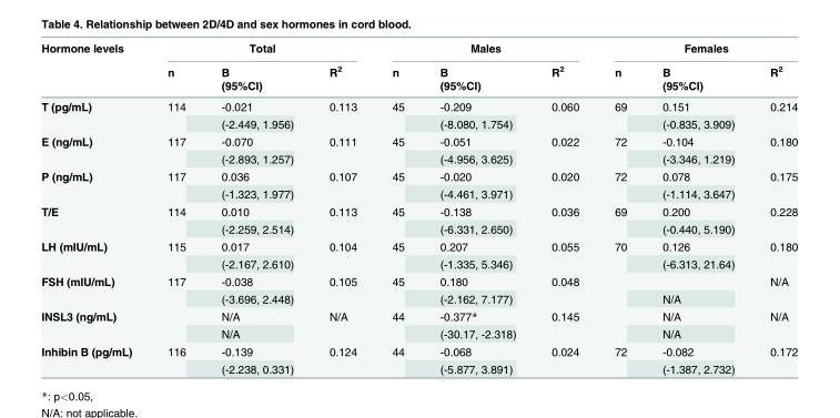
<table><thead><tr><td rowspan="3">Hormone levels</td><td colspan="3">Total</td><td colspan="3">Males</td><td colspan="3">Females</td></tr><tr><td rowspan="2">n</td><td rowspan="2">B (95%CI)</td><td rowspan="2">R<sup>2</sup></td><td rowspan="2">n</td><td rowspan="2">B (95%CI)</td><td rowspan="2">R<sup>2</sup></td><td rowspan="2">n</td><td rowspan="2">B (95%CI)</td><td rowspan="2">R<sup>2</sup></td></tr><tr></tr></thead><tbody><tr><td rowspan="2">T (pg/mL)</td><td rowspan="2">114</td><td>-0.021</td><td rowspan="2">0.113</td><td rowspan="2">45</td><td>-0.209</td><td rowspan="2">0.060</td><td rowspan="2">69</td><td>0.151</td><td rowspan="2">0.214</td></tr><tr><td>(-2.449, 1.956)</td><td>(-8.080, 1.754)</td><td>(-0.835, 3.909)</td></tr><tr><td rowspan="2">E (ng/mL)</td><td rowspan="2">117</td><td>-0.070</td><td rowspan="2">0.111</td><td rowspan="2">45</td><td>-0.051</td><td rowspan="2">0.022</td><td rowspan="2">72</td><td>-0.104</td><td rowspan="2">0.180</td></tr><tr><td>(-2.893, 1.257)</td><td>(-4.956, 3.625)</td><td>(-3.346, 1.219)</td></tr><tr><td rowspan="2">P (ng/mL)</td><td rowspan="2">117</td><td>0.036</td><td rowspan="2">0.107</td><td rowspan="2">45</td><td>-0.020</td><td rowspan="2">0.020</td><td rowspan="2">72</td><td>0.078</td><td rowspan="2">0.175</td></tr><tr><td>(-1.323, 1.977)</td><td>(-4.461, 3.971)</td><td>(-1.114, 3.647)</td></tr><tr><td rowspan="2">T/E</td><td rowspan="2">114</td><td>0.010</td><td rowspan="2">0.113</td><td rowspan="2">45</td><td>-0.138</td><td rowspan="2">0.036</td><td rowspan="2">69</td><td>0.200</td><td rowspan="2">0.228</td></tr><tr><td>(-2.259, 2.514)</td><td>(-6.331, 2.650)</td><td>(-0.440, 5.190)</td></tr><tr><td rowspan="2">LH (mIU/mL)</td><td rowspan="2">115</td><td>0.017</td><td rowspan="2">0.104</td><td rowspan="2">45</td><td>0.207</td><td rowspan="2">0.055</td><td rowspan="6">70</td><td>0.126</td><td rowspan="2">0.180</td></tr><tr><td>(-2.167, 2.610)</td><td>(-1.335, 5.346)</td><td>(-6.313, 21.64)</td></tr><tr><td rowspan="2">FSH (mIU/mL)</td><td rowspan="4">117</td><td>-0.038</td><td rowspan="2">0.105</td><td rowspan="2">45</td><td>0.180</td><td rowspan="2">0.048</td><td></td><td rowspan="2">N/A</td></tr><tr><td>(-3.696, 2.448)</td><td>(-2.162, 7.177)</td><td>N/A</td></tr><tr><td rowspan="2">INSL3 (ng/mL)</td><td>N/A</td><td rowspan="2">N/A</td><td rowspan="2">44</td><td>-0.377*</td><td rowspan="2">0.145</td><td>N/A</td><td rowspan="2">N/A</td></tr><tr><td>N/A</td><td>(-30.17, -2.318)</td><td>N/A</td></tr><tr><td rowspan="2">Inhibin B (pg/mL)</td><td rowspan="2">116</td><td>-0.139</td><td rowspan="2">0.124</td><td rowspan="2">44</td><td>-0.068</td><td rowspan="2">0.024</td><td rowspan="2">72</td><td>-0.082</td><td rowspan="2">0.172</td></tr><tr><td>(-2.238, 0.331)</td><td>(-5.877, 3.891)</td><td>(-1.387, 2.732)</td></tr></tbody></table>